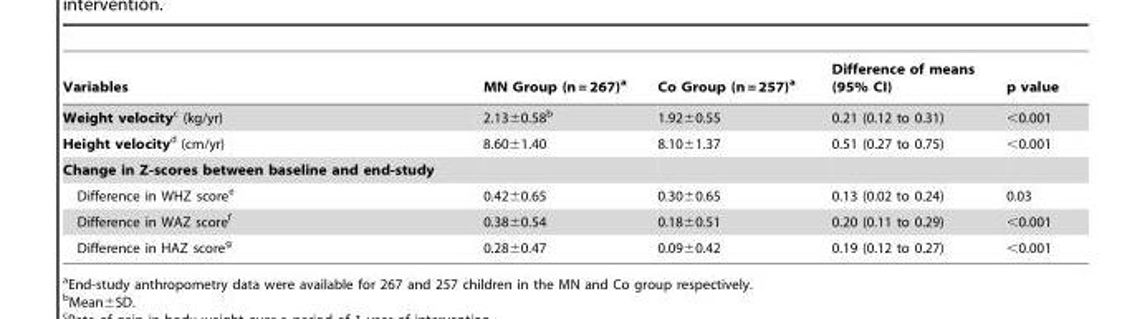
<table><thead><tr><td>Variables</td><td>MN Group (n = 267)<sup>a</sup></td><td>Co Group (n = 257)<sup>a</sup></td><td>Difference of means (95% CI)</td><td>p value</td></tr></thead><tbody><tr><td>Weight velocityc (kg/yr)</td><td>2.13±0.58<sup>b</sup></td><td>1.92±0.55</td><td>0.21 (0.12 to 0.31)</td><td>&lt;0.001</td></tr><tr><td>Height velocityd (cm/yr)</td><td>8.60±1.40</td><td>8.10±1.37</td><td>0.51 (0.27 to 0.75)</td><td>&lt;0.001</td></tr><tr><td colspan="5">Change in Z-scores between baseline and end-study</td></tr><tr><td>Difference in WHZ score<sup>e</sup></td><td>0.42±0.65</td><td>0.30±0.65</td><td>0.13 (0.02 to 0.24)</td><td>0.03</td></tr><tr><td>Difference in WAZ score<sup>f</sup></td><td>0.38±0.54</td><td>0.18±0.51</td><td>0.20 (0.11 to 0.29)</td><td>&lt;0.001</td></tr><tr><td>Difference in HAZ score<sup>g</sup></td><td>0.28±0.47</td><td>0.09±0.42</td><td>0.19 (0.12 to 0.27)</td><td>&lt;0.001</td></tr></tbody></table>